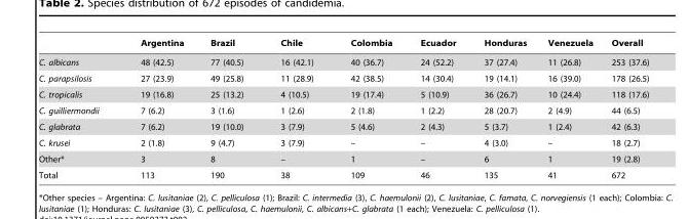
<table><thead><tr><td></td><td>Argentina</td><td>Brazil</td><td>Chile</td><td>Colombia</td><td>Ecuador</td><td>Honduras</td><td>Venezuela</td><td>Overall</td></tr></thead><tbody><tr><td>C. albicans</td><td>48 (42.5)</td><td>77 (40.5)</td><td>16 (42.1)</td><td>40 (36.7)</td><td>24 (52.2)</td><td>37 (27.4)</td><td>11 (26.8)</td><td>253 (37.6)</td></tr><tr><td>C. parapsilosis</td><td>27 (23.9)</td><td>49 (25.8)</td><td>11 (28.9)</td><td>42 (38.5)</td><td>14 (30.4)</td><td>19 (14.1)</td><td>16 (39.0)</td><td>178 (26.5)</td></tr><tr><td>C. tropicalis</td><td>19 (16.8)</td><td>25 (13.2)</td><td>4 (10.5)</td><td>19 (17.4)</td><td>5 (10.9)</td><td>36 (26.7)</td><td>10 (24.4)</td><td>118 (17.6)</td></tr><tr><td>C. guilliermondii</td><td>7 (6.2)</td><td>3 (1.6)</td><td>1 (2.6)</td><td>2 (1.8)</td><td>1 (2.2)</td><td>28 (20.7)</td><td>2 (4.9)</td><td>44 (6.5)</td></tr><tr><td>C. glabrata</td><td>7 (6.2)</td><td>19 (10.0)</td><td>3 (7.9)</td><td>5 (4.6)</td><td>2 (4.3)</td><td>5 (3.7)</td><td>1 (2.4)</td><td>42 (6.3)</td></tr><tr><td>C. krusei</td><td>2 (1.8)</td><td>9 (4.7)</td><td>3 (7.9)</td><td>–</td><td>–</td><td>4 (3.0)</td><td>–</td><td>18 (2.7)</td></tr><tr><td>Other*</td><td>3</td><td>8</td><td>–</td><td>1</td><td>–</td><td>6</td><td>1</td><td>19 (2.8)</td></tr><tr><td>Total</td><td>113</td><td>190</td><td>38</td><td>109</td><td>46</td><td>135</td><td>41</td><td>672</td></tr></tbody></table>